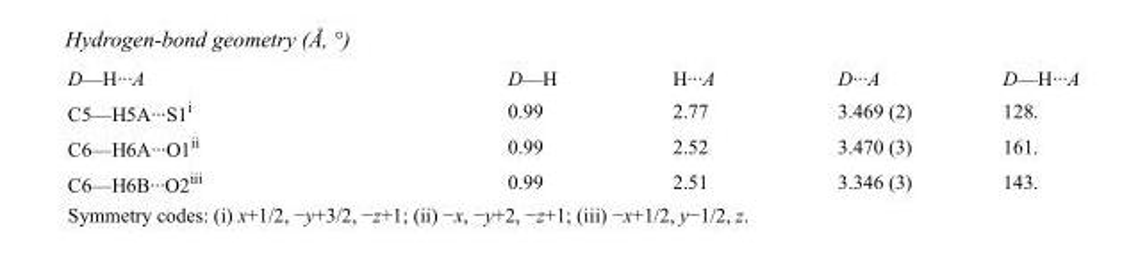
<table><tbody><tr><td>D—H···A</td><td>D—H</td><td>H···A</td><td>D···A</td><td>D—H···A</td></tr><tr><td>C5—H5A···S1<sup>i</sup></td><td>0.99</td><td>2.77</td><td>3.469 (2)</td><td>128.</td></tr><tr><td>C6—H6A···O1<sup>ii</sup></td><td>0.99</td><td>2.52</td><td>3.470 (3)</td><td>161.</td></tr><tr><td>C6—H6B···O2<sup>iii</sup></td><td>0.99</td><td>2.51</td><td>3.346 (3)</td><td>143.</td></tr></tbody></table>